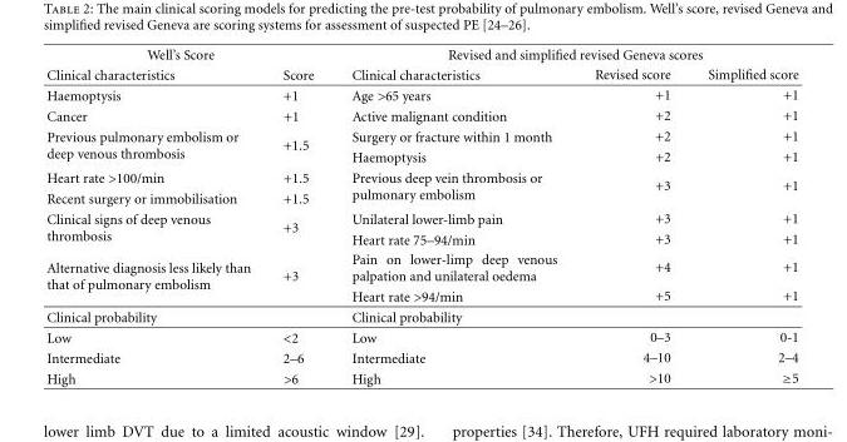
<table><thead><tr><td colspan="2">Well’s Score</td><td colspan="3">Revised and simplified revised Geneva scores</td></tr><tr><td>Clinical characteristics</td><td>Score</td><td>Clinical characteristics</td><td>Revised score</td><td>Simplified score</td></tr></thead><tbody><tr><td>Haemoptysis</td><td>+1</td><td>Age &gt;65 years</td><td>+1</td><td>+1</td></tr><tr><td>Cancer</td><td>+1</td><td>Active malignant condition</td><td>+2</td><td>+1</td></tr><tr><td rowspan="2">Previous pulmonary embolism or deep venous thrombosis</td><td rowspan="2">+1.5</td><td>Surgery or fracture within 1 month</td><td>+2</td><td>+1</td></tr><tr><td>Haemoptysis</td><td>+2</td><td>+1</td></tr><tr><td>Heart rate &gt;100/min</td><td>+1.5</td><td rowspan="2">Previous deep vein thrombosis or pulmonary embolism</td><td rowspan="2">+3</td><td rowspan="2">+1</td></tr><tr><td>Recent surgery or immobilisation</td><td>+1.5</td></tr><tr><td rowspan="2">Clinical signs of deep venous thrombosis</td><td rowspan="2">+3</td><td>Unilateral lower-limb pain</td><td>+3</td><td>+1</td></tr><tr><td>Heart rate 75–94/min</td><td>+3</td><td>+1</td></tr><tr><td rowspan="2">Alternative diagnosis less likely than that of pulmonary embolism</td><td rowspan="2">+3</td><td>Pain on lower-limp deep venous palpation and unilateral oedema</td><td>+4</td><td>+1</td></tr><tr><td>Heart rate &gt;94/min</td><td>+5</td><td>+1</td></tr><tr><td>Clinical probability</td><td></td><td>Clinical probability</td><td></td><td></td></tr><tr><td>Low</td><td>&lt;2</td><td>Low</td><td>0–3</td><td>0-1</td></tr><tr><td>Intermediate</td><td>2–6</td><td>Intermediate</td><td>4–10</td><td>2–4</td></tr><tr><td>High</td><td>&gt;6</td><td>High</td><td>&gt;10</td><td>≥5</td></tr></tbody></table>